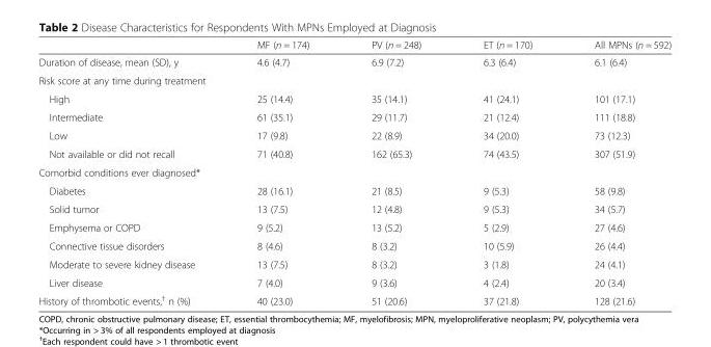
<table><thead><tr><td></td><td>MF (n = 174)</td><td>PV (n = 248)</td><td>ET (n = 170)</td><td>All MPNs (n = 592)</td></tr></thead><tbody><tr><td>Duration of disease, mean (SD), y</td><td>4.6 (4.7)</td><td>6.9 (7.2)</td><td>6.3 (6.4)</td><td>6.1 (6.4)</td></tr><tr><td colspan="5">Risk score at any time during treatment</td></tr><tr><td>High</td><td>25 (14.4)</td><td>35 (14.1)</td><td>41 (24.1)</td><td>101 (17.1)</td></tr><tr><td>Intermediate</td><td>61 (35.1)</td><td>29 (11.7)</td><td>21 (12.4)</td><td>111 (18.8)</td></tr><tr><td>Low</td><td>17 (9.8)</td><td>22 (8.9)</td><td>34 (20.0)</td><td>73 (12.3)</td></tr><tr><td>Not available or did not recall</td><td>71 (40.8)</td><td>162 (65.3)</td><td>74 (43.5)</td><td>307 (51.9)</td></tr><tr><td colspan="5">Comorbid conditions ever diagnosed*</td></tr><tr><td>Diabetes</td><td>28 (16.1)</td><td>21 (8.5)</td><td>9 (5.3)</td><td>58 (9.8)</td></tr><tr><td>Solid tumor</td><td>13 (7.5)</td><td>12 (4.8)</td><td>9 (5.3)</td><td>34 (5.7)</td></tr><tr><td>Emphysema or COPD</td><td>9 (5.2)</td><td>13 (5.2)</td><td>5 (2.9)</td><td>27 (4.6)</td></tr><tr><td>Connective tissue disorders</td><td>8 (4.6)</td><td>8 (3.2)</td><td>10 (5.9)</td><td>26 (4.4)</td></tr><tr><td>Moderate to severe kidney disease</td><td>13 (7.5)</td><td>8 (3.2)</td><td>3 (1.8)</td><td>24 (4.1)</td></tr><tr><td>Liver disease</td><td>7 (4.0)</td><td>9 (3.6)</td><td>4 (2.4)</td><td>20 (3.4)</td></tr><tr><td>History of thrombotic events,<sup>†</sup> n (%)</td><td>40 (23.0)</td><td>51 (20.6)</td><td>37 (21.8)</td><td>128 (21.6)</td></tr></tbody></table>